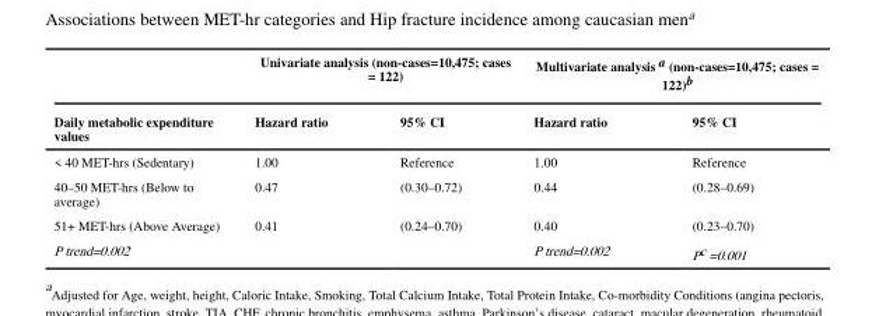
<table><thead><tr><td rowspan="2">Daily metabolic expenditure values</td><td colspan="2">Univariate analysis (non-cases=10,475; cases = 122)</td><td colspan="2">Multivariate analysis a (non-cases=10,475; cases = 122)<sup>b</sup></td></tr><tr><td>Hazard ratio</td><td>95% CI</td><td>Hazard ratio</td><td>95% CI</td></tr></thead><tbody><tr><td>&lt; 40 MET-hrs (Sedentary)</td><td>1.00</td><td>Reference</td><td>1.00</td><td>Reference</td></tr><tr><td>40–50 MET-hrs (Below to average)</td><td>0.47</td><td>(0.30–0.72)</td><td>0.44</td><td>(0.28–0.69)</td></tr><tr><td>51+ MET-hrs (Above Average)</td><td>0.41</td><td>(0.24–0.70)</td><td>0.40</td><td>(0.23–0.70)</td></tr><tr><td>P trend=0.002</td><td></td><td></td><td>P trend=0.002</td><td>P<sup>c</sup> =0.001</td></tr></tbody></table>